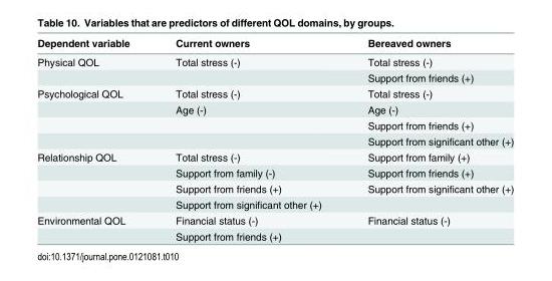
<table><thead><tr><td>Dependent variable</td><td>Current owners</td><td>Bereaved owners</td></tr></thead><tbody><tr><td rowspan="2">Physical QOL</td><td>Total stress (-)</td><td>Total stress (-)</td></tr><tr><td></td><td>Support from friends (+)</td></tr><tr><td rowspan="4">Psychological QOL</td><td>Total stress (-)</td><td>Total stress (-)</td></tr><tr><td>Age (-)</td><td>Age (-)</td></tr><tr><td></td><td>Support from friends (+)</td></tr><tr><td></td><td>Support from significant other (+)</td></tr><tr><td rowspan="4">Relationship QOL</td><td>Total stress (-)</td><td>Support from family (+)</td></tr><tr><td>Support from family (-)</td><td>Support from friends (+)</td></tr><tr><td>Support from friends (+)</td><td>Support from significant other (+)</td></tr><tr><td>Support from significant other (+)</td><td></td></tr><tr><td rowspan="2">Environmental QOL</td><td>Financial status (-)</td><td>Financial status (-)</td></tr><tr><td>Support from friends (+)</td><td></td></tr></tbody></table>